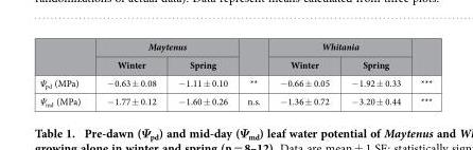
<table><thead><tr><td rowspan="2"></td><td colspan="2">Maytenus</td><td rowspan="2"></td><td colspan="2">Whitania</td><td rowspan="2"></td></tr><tr><td>Winter</td><td>Spring</td><td>Winter</td><td>Spring</td></tr></thead><tbody><tr><td>Ψ<sub>pd</sub> (MPa)</td><td>− 0.63 ± 0.08</td><td>− 1.11 ± 0.10</td><td>**</td><td>− 0.66 ± 0.05</td><td>− 1.92 ± 0.33</td><td>***</td></tr><tr><td>Ψ<sub>md</sub> (MPa)</td><td>− 1.77 ± 0.12</td><td>− 1.60 ± 0.26</td><td>n.s.</td><td>− 1.36 ± 0.72</td><td>− 3.20 ± 0.44</td><td>***</td></tr></tbody></table>